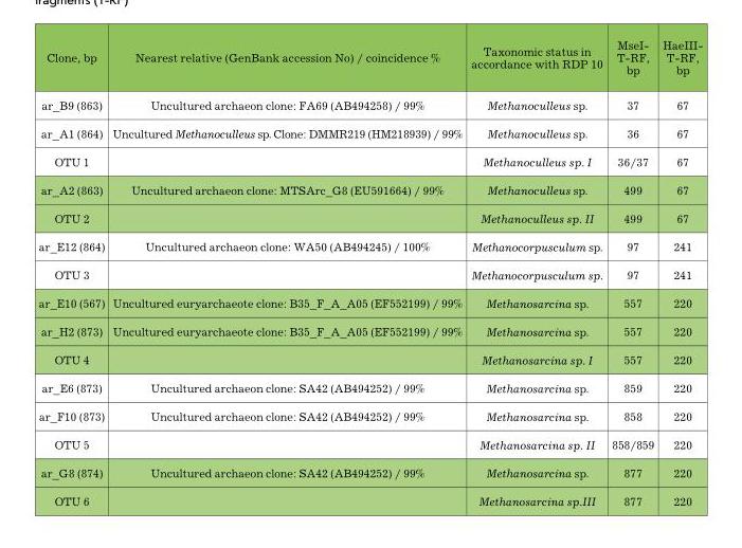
<table><thead><tr><td>clone, bp</td><td>nearest relative (GenBank accession no) / coincidence %</td><td>taxonomic status in accordance with rDP 10</td><td>MseI- t-rF, bp</td><td>HaeIII- t-rF, bp</td></tr></thead><tbody><tr><td>ar_B9 (863)</td><td>uncultured archaeon clone: FA69 (AB494258) / 99%</td><td>Methanoculleus sp.</td><td>37</td><td>67</td></tr><tr><td>ar_A1 (864)</td><td>uncultured Methanoculleus sp. clone: DMMr219 (HM218939) / 99%</td><td>Methanoculleus sp.</td><td>36</td><td>67</td></tr><tr><td>Otu 1</td><td></td><td>Methanoculleus sp. I</td><td>36/37</td><td>67</td></tr><tr><td>ar_A2 (863)</td><td>uncultured archaeon clone: MtSArc_G8 (eu591664) / 99%</td><td>Methanoculleus sp.</td><td>499</td><td>67</td></tr><tr><td>Otu 2</td><td></td><td>Methanoculleus sp. II</td><td>499</td><td>67</td></tr><tr><td>ar_e12 (864)</td><td>uncultured archaeon clone: WA50 (AB494245) / 100%</td><td>Methanocorpusculum sp.</td><td>97</td><td>241</td></tr><tr><td>Otu 3</td><td></td><td>Methanocorpusculum sp.</td><td>97</td><td>241</td></tr><tr><td>ar_e10 (567)</td><td>uncultured euryarchaeote clone: B35_F_A_A05 (eF552199) / 99%</td><td>Methanosarcina sp.</td><td>557</td><td>220</td></tr><tr><td>ar_H2 (873)</td><td>uncultured euryarchaeote clone: B35_F_A_A05 (eF552199) / 99%</td><td>Methanosarcina sp.</td><td>557</td><td>220</td></tr><tr><td>Otu 4</td><td></td><td>Methanosarcina sp. I</td><td>557</td><td>220</td></tr><tr><td>ar_e6 (873)</td><td>uncultured archaeon clone: SA42 (AB494252) / 99%</td><td>Methanosarcina sp.</td><td>859</td><td>220</td></tr><tr><td>ar_F10 (873)</td><td>uncultured archaeon clone: SA42 (AB494252) / 99%</td><td>Methanosarcina sp.</td><td>858</td><td>220</td></tr><tr><td>Otu 5</td><td></td><td>Methanosarcina sp. II</td><td>858/859</td><td>220</td></tr><tr><td>ar_G8 (874)</td><td>uncultured archaeon clone: SA42 (AB494252) / 99%</td><td>Methanosarcina sp.</td><td>877</td><td>220</td></tr><tr><td>Otu 6</td><td></td><td>Methanosarcina sp.III</td><td>877</td><td>220</td></tr></tbody></table>